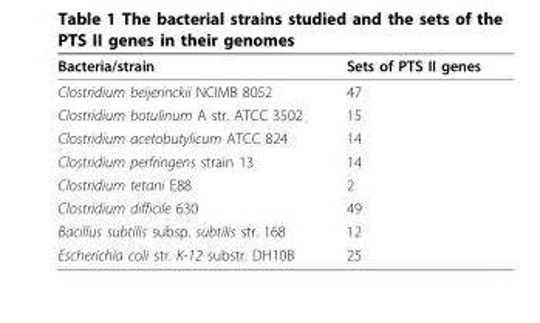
<table><thead><tr><td>Bacteria/strain</td><td>Sets of PTS II genes</td></tr></thead><tbody><tr><td>Clostridium beijerinckii NCIMB 8052</td><td>47</td></tr><tr><td>Clostridium botulinum A str. ATCC 3502</td><td>15</td></tr><tr><td>Clostridium acetobutylicum ATCC 824</td><td>14</td></tr><tr><td>Clostridium perfringens strain 13</td><td>14</td></tr><tr><td>Clostridium tetani E88</td><td>2</td></tr><tr><td>Clostridium difficile 630</td><td>49</td></tr><tr><td>Bacillus subtilis subsp. subtilis str. 168</td><td>12</td></tr><tr><td>Escherichia coli str. K-12 substr. DH10B</td><td>25</td></tr></tbody></table>